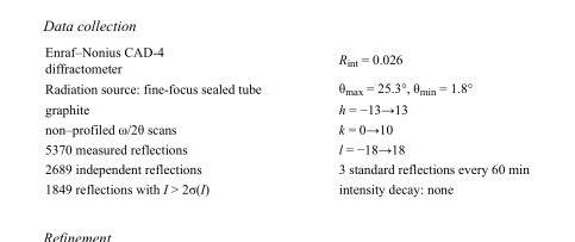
<table><tbody><tr><td>Enraf–Nonius CAD-4 diffractometer</td><td>R<sub>int</sub> = 0.026</td></tr><tr><td>Radiation source: fine-focus sealed tube</td><td>θ<sub>max</sub> = 25.3°, θ<sub>min</sub> = 1.8°</td></tr><tr><td>graphite</td><td>h = −13→13</td></tr><tr><td>non–profiled ω/2θ scans</td><td>k = 0→10</td></tr><tr><td>5370 measured reflections</td><td>l = −18→18</td></tr><tr><td>2689 independent reflections</td><td>3 standard reflections every 60 min</td></tr><tr><td>1849 reflections with I &gt; 2σ(I)</td><td>intensity decay: none</td></tr></tbody></table>